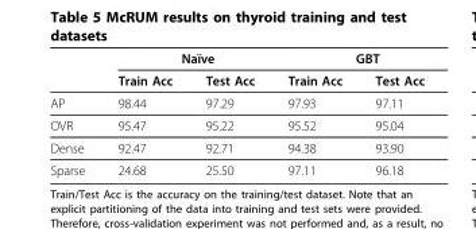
<table><thead><tr><td rowspan="2"></td><td colspan="2">Naïve</td><td colspan="2">GBT</td></tr><tr><td>Train Acc</td><td>Test Acc</td><td>Train Acc</td><td>Test Acc</td></tr></thead><tbody><tr><td>AP</td><td>98.44</td><td>97.29</td><td>97.93</td><td>97.11</td></tr><tr><td>OVR</td><td>95.47</td><td>95.22</td><td>95.52</td><td>95.04</td></tr><tr><td>Dense</td><td>92.47</td><td>92.71</td><td>94.38</td><td>93.90</td></tr><tr><td>Sparse</td><td>24.68</td><td>25.50</td><td>97.11</td><td>96.18</td></tr></tbody></table>